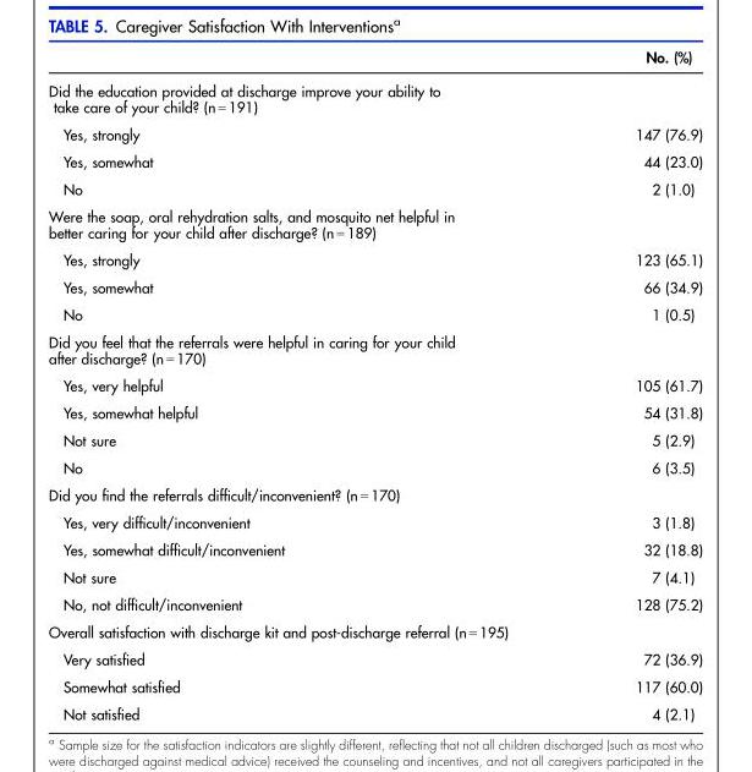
<table><thead><tr><td></td><td>No. (%)</td></tr></thead><tbody><tr><td colspan="2">Did the education provided at discharge improve your ability to take care of your child? (n = 191)</td></tr><tr><td>Yes, strongly</td><td>147 (76.9)</td></tr><tr><td>Yes, somewhat</td><td>44 (23.0)</td></tr><tr><td>No</td><td>2 (1.0)</td></tr><tr><td colspan="2">Were the soap, oral rehydration salts, and mosquito net helpful in better caring for your child after discharge? (n = 189)</td></tr><tr><td>Yes, strongly</td><td>123 (65.1)</td></tr><tr><td>Yes, somewhat</td><td>66 (34.9)</td></tr><tr><td>No</td><td>1 (0.5)</td></tr><tr><td colspan="2">Did you feel that the referrals were helpful in caring for your child after discharge? (n = 170)</td></tr><tr><td>Yes, very helpful</td><td>105 (61.7)</td></tr><tr><td>Yes, somewhat helpful</td><td>54 (31.8)</td></tr><tr><td>Not sure</td><td>5 (2.9)</td></tr><tr><td>No</td><td>6 (3.5)</td></tr><tr><td colspan="2">Did you find the referrals difficult/inconvenient? (n = 170)</td></tr><tr><td>Yes, very difficult/inconvenient</td><td>3 (1.8)</td></tr><tr><td>Yes, somewhat difficult/inconvenient</td><td>32 (18.8)</td></tr><tr><td>Not sure</td><td>7 (4.1)</td></tr><tr><td>No, not difficult/inconvenient</td><td>128 (75.2)</td></tr><tr><td colspan="2">Overall satisfaction with discharge kit and post-discharge referral (n = 195)</td></tr><tr><td>Very satisfied</td><td>72 (36.9)</td></tr><tr><td>Somewhat satisfied</td><td>117 (60.0)</td></tr><tr><td>Not satisfied</td><td>4 (2.1)</td></tr></tbody></table>